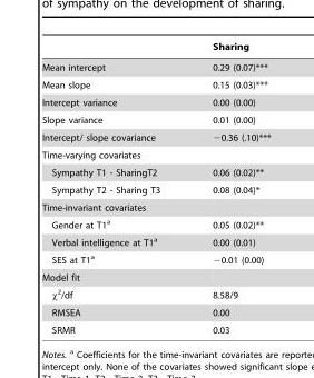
<table><thead><tr><td></td><td>Sharing</td></tr></thead><tbody><tr><td>Mean intercept</td><td>0.29 (0.07)***</td></tr><tr><td>Mean slope</td><td>0.15 (0.03)***</td></tr><tr><td>Intercept variance</td><td>0.00 (0.00)</td></tr><tr><td>Slope variance</td><td>0.01 (0.00)</td></tr><tr><td>Intercept/ slope covariance</td><td>−0.36 (.10)***</td></tr><tr><td colspan="2">Time-varying covariates</td></tr><tr><td>Sympathy T1 - SharingT2</td><td>0.06 (0.02)**</td></tr><tr><td>Sympathy T2 - Sharing T3</td><td>0.08 (0.04)*</td></tr><tr><td colspan="2">Time-invariant covariates</td></tr><tr><td>Gender at T1<sup>a</sup></td><td>0.05 (0.02)**</td></tr><tr><td>Verbal intelligence at T1<sup>a</sup></td><td>0.00 (0.01)</td></tr><tr><td>SES at T1<sup>a</sup></td><td>−0.01 (0.00)</td></tr><tr><td colspan="2">Model fit</td></tr><tr><td>χ<sup>2</sup>/df</td><td>8.58/9</td></tr><tr><td>RMSEA</td><td>0.00</td></tr><tr><td>SRMR</td><td>0.03</td></tr></tbody></table>